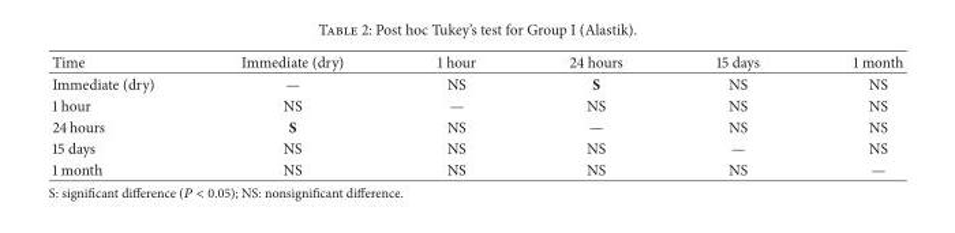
<table><thead><tr><td>Time</td><td>Immediate (dry)</td><td>1 hour</td><td>24 hours</td><td>15 days</td><td>1 month</td></tr></thead><tbody><tr><td>Immediate (dry)</td><td>—</td><td>NS</td><td>S</td><td>NS</td><td>NS</td></tr><tr><td>1 hour</td><td>NS</td><td>—</td><td>NS</td><td>NS</td><td>NS</td></tr><tr><td>24 hours</td><td>S</td><td>NS</td><td>—</td><td>NS</td><td>NS</td></tr><tr><td>15 days</td><td>NS</td><td>NS</td><td>NS</td><td>—</td><td>NS</td></tr><tr><td>1 month</td><td>NS</td><td>NS</td><td>NS</td><td>NS</td><td>—</td></tr></tbody></table>